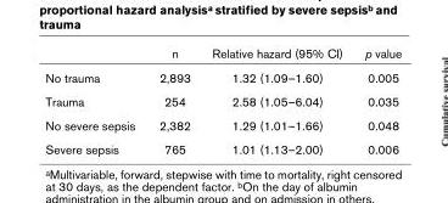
<table><thead><tr><td></td><td>n</td><td>Relative hazard (95% CI)</td><td>p value</td></tr></thead><tbody><tr><td>No trauma</td><td>2,893</td><td>1.32 (1.09–1.60)</td><td>0.005</td></tr><tr><td>Trauma</td><td>254</td><td>2.58 (1.05–6.04)</td><td>0.035</td></tr><tr><td>No severe sepsis</td><td>2,382</td><td>1.29 (1.01–1.66)</td><td>0.048</td></tr><tr><td>Severe sepsis</td><td>765</td><td>1.01 (1.13–2.00)</td><td>0.006</td></tr></tbody></table>